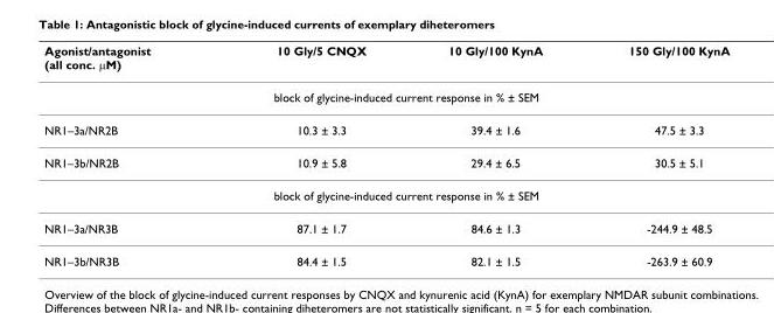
<table><thead><tr><td>Agonist/antagonist (all conc. μM)</td><td>10 Gly/5 CNQX</td><td>10 Gly/100 KynA</td><td>150 Gly/100 KynA</td></tr></thead><tbody><tr><td colspan="4">block of glycine-induced current response in % ± SEM</td></tr><tr><td>NR1–3a/NR2B</td><td>10.3 ± 3.3</td><td>39.4 ± 1.6</td><td>47.5 ± 3.3</td></tr><tr><td>NR1–3b/NR2B</td><td>10.9 ± 5.8</td><td>29.4 ± 6.5</td><td>30.5 ± 5.1</td></tr><tr><td colspan="4">block of glycine-induced current response in % ± SEM</td></tr><tr><td>NR1–3a/NR3B</td><td>87.1 ± 1.7</td><td>84.6 ± 1.3</td><td>-244.9 ± 48.5</td></tr><tr><td>NR1–3b/NR3B</td><td>84.4 ± 1.5</td><td>82.1 ± 1.5</td><td>-263.9 ± 60.9</td></tr></tbody></table>